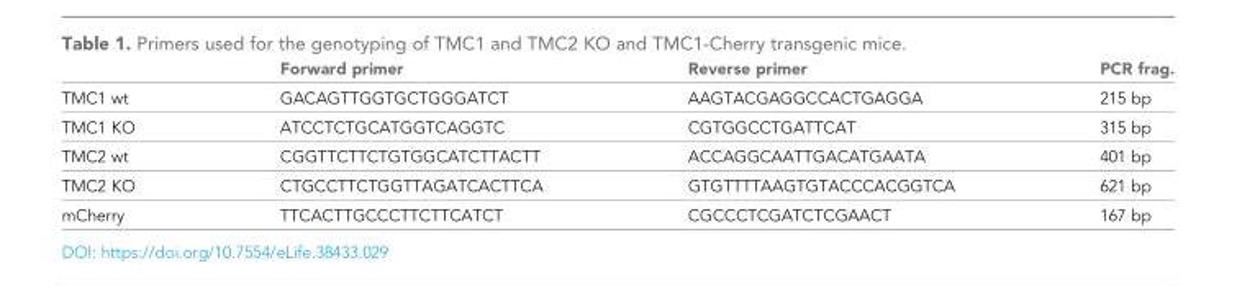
<table><thead><tr><td></td><td>Forward primer</td><td>Reverse primer</td><td>PCR frag.</td></tr></thead><tbody><tr><td>TMC1 wt</td><td>GACAGTTGGTGCTGGGATCT</td><td>AAGTACGAGGCCACTGAGGA</td><td>215 bp</td></tr><tr><td>TMC1 KO</td><td>ATCCTCTGCATGGTCAGGTC</td><td>CGTGGCCTGATTCAT</td><td>315 bp</td></tr><tr><td>TMC2 wt</td><td>CGGTTCTTCTGTGGCATCTTACTT</td><td>ACCAGGCAATTGACATGAATA</td><td>401 bp</td></tr><tr><td>TMC2 KO</td><td>CTGCCTTCTGGTTAGATCACTTCA</td><td>GTGTTTTAAGTGTACCCACGGTCA</td><td>621 bp</td></tr><tr><td>mCherry</td><td>TTCACTTGCCCTTCTTCATCT</td><td>CGCCCTCGATCTCGAACT</td><td>167 bp</td></tr></tbody></table>